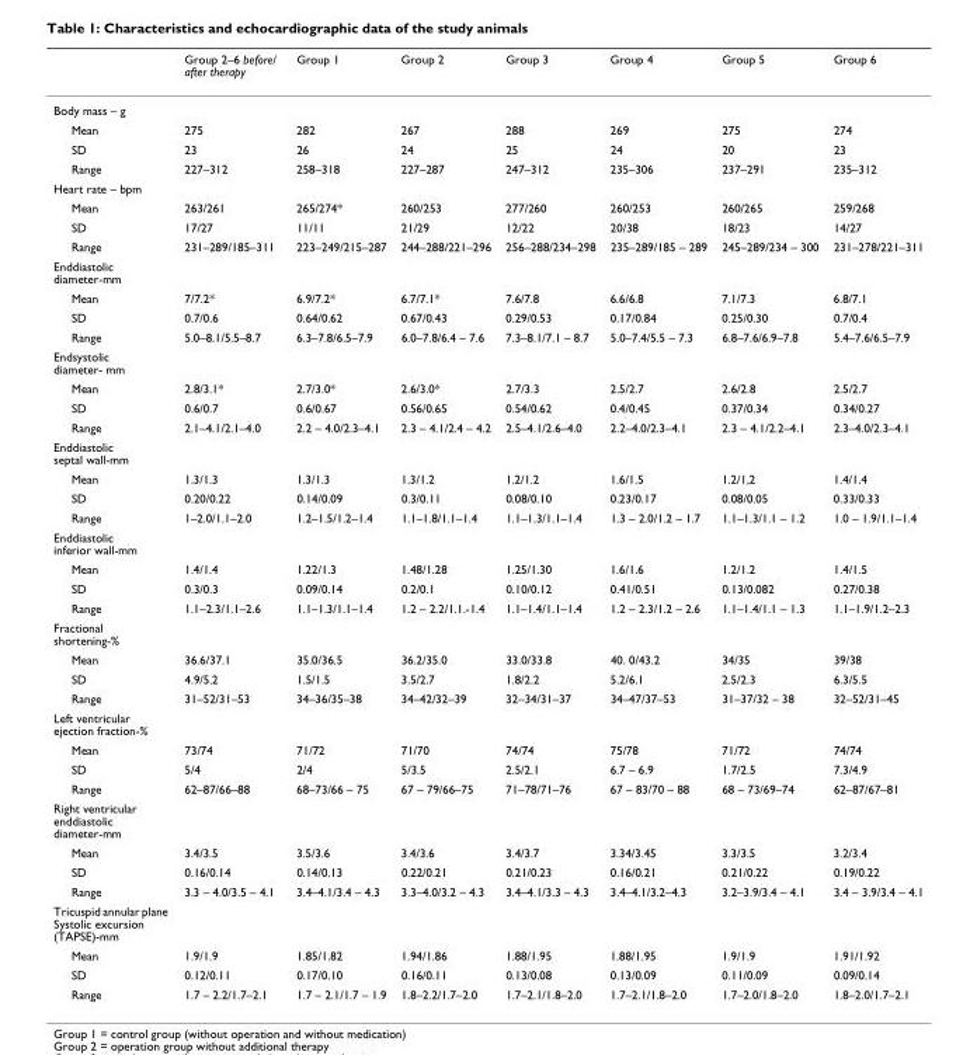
<table><thead><tr><td></td><td>Group 2–6 before/ after therapy</td><td>Group 1</td><td>Group 2</td><td>Group 3</td><td>Group 4</td><td>Group 5</td><td>Group 6</td></tr></thead><tbody><tr><td colspan="8">Body mass – g</td></tr><tr><td>Mean</td><td>275</td><td>282</td><td>267</td><td>288</td><td>269</td><td>275</td><td>274</td></tr><tr><td>SD</td><td>23</td><td>26</td><td>24</td><td>25</td><td>24</td><td>20</td><td>23</td></tr><tr><td>Range</td><td>227–312</td><td>258–318</td><td>227–287</td><td>247–312</td><td>235–306</td><td>237–291</td><td>235–312</td></tr><tr><td colspan="8">Heart rate – bpm</td></tr><tr><td>Mean</td><td>263/261</td><td>265/274*</td><td>260/253</td><td>277/260</td><td>260/253</td><td>260/265</td><td>259/268</td></tr><tr><td>SD</td><td>17/27</td><td>11/11</td><td>21/29</td><td>12/22</td><td>20/38</td><td>18/23</td><td>14/27</td></tr><tr><td>Range</td><td>231–289/185–311</td><td>223–249/215–287</td><td>244–288/221–296</td><td>256–288/234–298</td><td>235–289/185 – 289</td><td>245–289/234 – 300</td><td>231–278/221–311</td></tr><tr><td colspan="8">Enddiastolic diameter-mm</td></tr><tr><td>Mean</td><td>7/7.2*</td><td>6.9/7.2*</td><td>6.7/7.1*</td><td>7.6/7.8</td><td>6.6/6.8</td><td>7.1/7.3</td><td>6.8/7.1</td></tr><tr><td>SD</td><td>0.7/0.6</td><td>0.64/0.62</td><td>0.67/0.43</td><td>0.29/0.53</td><td>0.17/0.84</td><td>0.25/0.30</td><td>0.7/0.4</td></tr><tr><td>Range</td><td>5.0–8.1/5.5–8.7</td><td>6.3–7.8/6.5–7.9</td><td>6.0–7.8/6.4 – 7.6</td><td>7.3–8.1/7.1 – 8.7</td><td>5.0–7.4/5.5 – 7.3</td><td>6.8–7.6/6.9–7.8</td><td>5.4–7.6/6.5–7.9</td></tr><tr><td colspan="8">Endsystolic diameter- mm</td></tr><tr><td>Mean</td><td>2.8/3.1*</td><td>2.7/3.0*</td><td>2.6/3.0*</td><td>2.7/3.3</td><td>2.5/2.7</td><td>2.6/2.8</td><td>2.5/2.7</td></tr><tr><td>SD</td><td>0.6/0.7</td><td>0.6/0.67</td><td>0.56/0.65</td><td>0.54/0.62</td><td>0.4/0.45</td><td>0.37/0.34</td><td>0.34/0.27</td></tr><tr><td>Range</td><td>2.1–4.1/2.1–4.0</td><td>2.2 – 4.0/2.3–4.1</td><td>2.3 – 4.1/2.4 – 4.2</td><td>2.5–4.1/2.6–4.0</td><td>2.2–4.0/2.3–4.1</td><td>2.3 – 4.1/2.2–4.1</td><td>2.3–4.0/2.3–4.1</td></tr><tr><td colspan="8">Enddiastolic septal wall-mm</td></tr><tr><td>Mean</td><td>1.3/1.3</td><td>1.3/1.3</td><td>1.3/1.2</td><td>1.2/1.2</td><td>1.6/1.5</td><td>1.2/1,2</td><td>1.4/1.4</td></tr><tr><td>SD</td><td>0.20/0.22</td><td>0.14/0.09</td><td>0.3/0.11</td><td>0.08/0.10</td><td>0.23/0.17</td><td>0.08/0.05</td><td>0.33/0.33</td></tr><tr><td>Range</td><td>1–2.0/1.1–2.0</td><td>1.2–1.5/1.2–1.4</td><td>1.1–1.8/1.1–1.4</td><td>1.1–1.3/1.1–1.4</td><td>1.3 – 2.0/1.2 – 1.7</td><td>1.1–1.3/1.1 – 1.2</td><td>1.0 – 1.9/1.1–1.4</td></tr><tr><td colspan="8">Enddiastolic inferior wall-mm</td></tr><tr><td>Mean</td><td>1.4/1.4</td><td>1.22/1.3</td><td>1.48/1.28</td><td>1.25/1.30</td><td>1.6/1.6</td><td>1.2/1.2</td><td>1.4/1.5</td></tr><tr><td>SD</td><td>0.3/0.3</td><td>0.09/0.14</td><td>0.2/0.1</td><td>0.10/0.12</td><td>0.41/0.51</td><td>0.13/0.082</td><td>0.27/0.38</td></tr><tr><td>Range</td><td>1.1–2.3/1.1–2.6</td><td>1.1–1.3/1.1–1.4</td><td>1.2 – 2.2/1.1.-1.4</td><td>1.1–1.4/1.1–1.4</td><td>1.2 – 2.3/1.2 – 2.6</td><td>1.1–1.4/1.1 – 1.3</td><td>1.1–1.9/1.2–2.3</td></tr><tr><td colspan="8">Fractional shortening-%</td></tr><tr><td>Mean</td><td>36.6/37.1</td><td>35.0/36.5</td><td>36.2/35.0</td><td>33.0/33.8</td><td>40. 0/43.2</td><td>34/35</td><td>39/38</td></tr><tr><td>SD</td><td>4.9/5.2</td><td>1.5/1.5</td><td>3.5/2.7</td><td>1.8/2.2</td><td>5.2/6.1</td><td>2.5/2.3</td><td>6.3/5.5</td></tr><tr><td>Range</td><td>31–52/31–53</td><td>34–36/35–38</td><td>34–42/32–39</td><td>32–34/31–37</td><td>34–47/37–53</td><td>31–37/32 – 38</td><td>32–52/31–45</td></tr><tr><td colspan="8">Left ventricular ejection fraction-%</td></tr><tr><td>Mean</td><td>73/74</td><td>71/72</td><td>71/70</td><td>74/74</td><td>75/78</td><td>71/72</td><td>74/74</td></tr><tr><td>SD</td><td>5/4</td><td>2/4</td><td>5/3.5</td><td>2.5/2.1</td><td>6.7 – 6.9</td><td>1.7/2.5</td><td>7.3/4.9</td></tr><tr><td>Range</td><td>62–87/66–88</td><td>68–73/66 – 75</td><td>67 – 79/66–75</td><td>71–78/71–76</td><td>67 – 83/70 – 88</td><td>68 – 73/69–74</td><td>62–87/67–81</td></tr><tr><td colspan="8">Right ventricular enddiastolic diameter-mm</td></tr><tr><td>Mean</td><td>3.4/3.5</td><td>3.5/3.6</td><td>3.4/3.6</td><td>3.4/3.7</td><td>3.34/3.45</td><td>3.3/3.5</td><td>3.2/3.4</td></tr><tr><td>SD</td><td>0.16/0.14</td><td>0.14/0.13</td><td>0.22/0.21</td><td>0.21/0.23</td><td>0.16/0.21</td><td>0.21/0.22</td><td>0.19/0.22</td></tr><tr><td>Range</td><td>3.3 – 4.0/3.5 – 4.1</td><td>3.4–4.1/3.4 – 4.3</td><td>3.3–4.0/3.2 – 4.3</td><td>3.4–4.1/3.3 – 4.3</td><td>3.4–4.1/3.2–4.3</td><td>3.2–3.9/3.4 – 4.1</td><td>3.4 – 3.9/3.4 – 4.1</td></tr><tr><td colspan="8">Tricuspid annular plane Systolic excursion (TAPSE)-mm</td></tr><tr><td>Mean</td><td>1.9/1.9</td><td>1.85/1.82</td><td>1.94/1.86</td><td>1.88/1.95</td><td>1.88/1.95</td><td>1.9/1.9</td><td>1.91/1.92</td></tr><tr><td>SD</td><td>0.12/0.11</td><td>0.17/0.10</td><td>0.16/0.11</td><td>0.13/0.08</td><td>0.13/0.09</td><td>0.11/0.09</td><td>0.09/0.14</td></tr><tr><td>Range</td><td>1.7 – 2.2/1.7–2.1</td><td>1.7 – 2.1/1.7 – 1.9</td><td>1.8–2.2/1.7–2.0</td><td>1.7–2.1/1.8–2.0</td><td>1.7–2.1/1.8–2.0</td><td>1.7–2.0/1.8–2.0</td><td>1.8–2.0/1.7–2.1</td></tr></tbody></table>